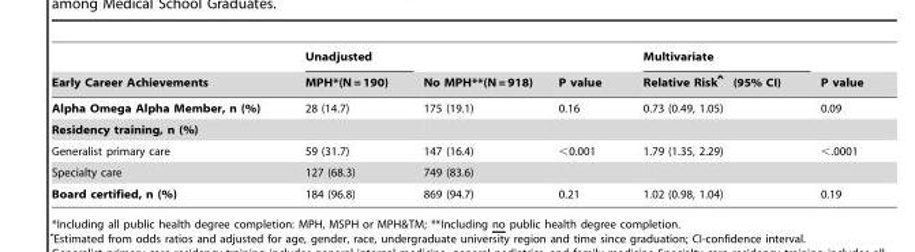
<table><thead><tr><td rowspan="2">Early Career Achievements</td><td rowspan="2">Unadjusted MPH*(N = 190)</td><td rowspan="2">No MPH**(N = 918)</td><td rowspan="2">P value</td><td rowspan="2">Multivariate Relative Riskˆ (95% CI)</td><td rowspan="2">P value</td></tr><tr></tr></thead><tbody><tr><td>Alpha Omega Alpha Member, n (%)</td><td>28 (14.7)</td><td>175 (19.1)</td><td>0.16</td><td>0.73 (0.49, 1.05)</td><td>0.09</td></tr><tr><td colspan="6">Residency training, n (%)</td></tr><tr><td>Generalist primary care</td><td>59 (31.7)</td><td>147 (16.4)</td><td>&lt;0.001</td><td>1.79 (1.35, 2.29)</td><td>&lt;.0001</td></tr><tr><td>Specialty care</td><td>127 (68.3)</td><td>749 (83.6)</td><td></td><td></td><td></td></tr><tr><td>Board certified, n (%)</td><td>184 (96.8)</td><td>869 (94.7)</td><td>0.21</td><td>1.02 (0.98, 1.04)</td><td>0.19</td></tr></tbody></table>